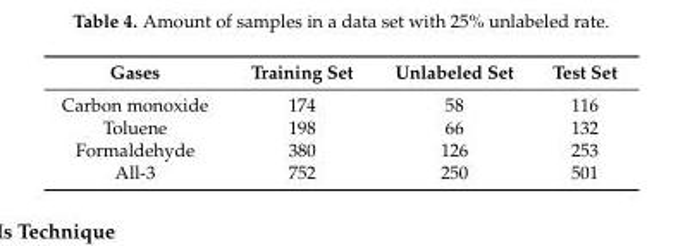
<table><thead><tr><td>Gases</td><td>Training Set</td><td>Unlabeled Set</td><td>Test Set</td></tr></thead><tbody><tr><td>Carbon monoxide</td><td>174</td><td>58</td><td>116</td></tr><tr><td>Toluene</td><td>198</td><td>66</td><td>132</td></tr><tr><td>Formaldehyde</td><td>380</td><td>126</td><td>253</td></tr><tr><td>All-3</td><td>752</td><td>250</td><td>501</td></tr></tbody></table>